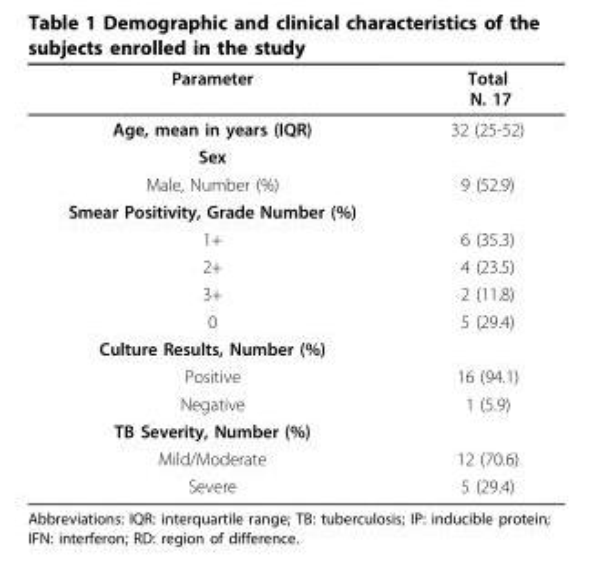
<table><thead><tr><td>Parameter</td><td>Total N. 17</td></tr></thead><tbody><tr><td>Age, mean in years (IQR)</td><td>32 (25-52)</td></tr><tr><td colspan="2">Sex</td></tr><tr><td>Male, Number (%)</td><td>9 (52.9)</td></tr><tr><td colspan="2">Smear Positivity, Grade Number (%)</td></tr><tr><td>1+</td><td>6 (35.3)</td></tr><tr><td>2+</td><td>4 (23.5)</td></tr><tr><td>3+</td><td>2 (11.8)</td></tr><tr><td>0</td><td>5 (29.4)</td></tr><tr><td colspan="2">Culture Results, Number (%)</td></tr><tr><td>Positive</td><td>16 (94.1)</td></tr><tr><td>Negative</td><td>1 (5.9)</td></tr><tr><td colspan="2">TB Severity, Number (%)</td></tr><tr><td>Mild/Moderate</td><td>12 (70.6)</td></tr><tr><td>Severe</td><td>5 (29.4)</td></tr></tbody></table>